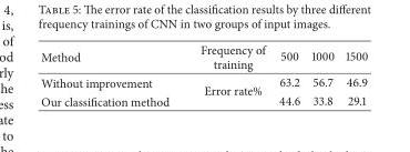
<table><thead><tr><td>Method</td><td>Frequency of training</td><td>500</td><td>1000</td><td>1500</td></tr></thead><tbody><tr><td>Without improvement</td><td rowspan="2">Error rate%</td><td>63.2</td><td>56.7</td><td>46.9</td></tr><tr><td>Our classification method</td><td>44.6</td><td>33.8</td><td>29.1</td></tr></tbody></table>